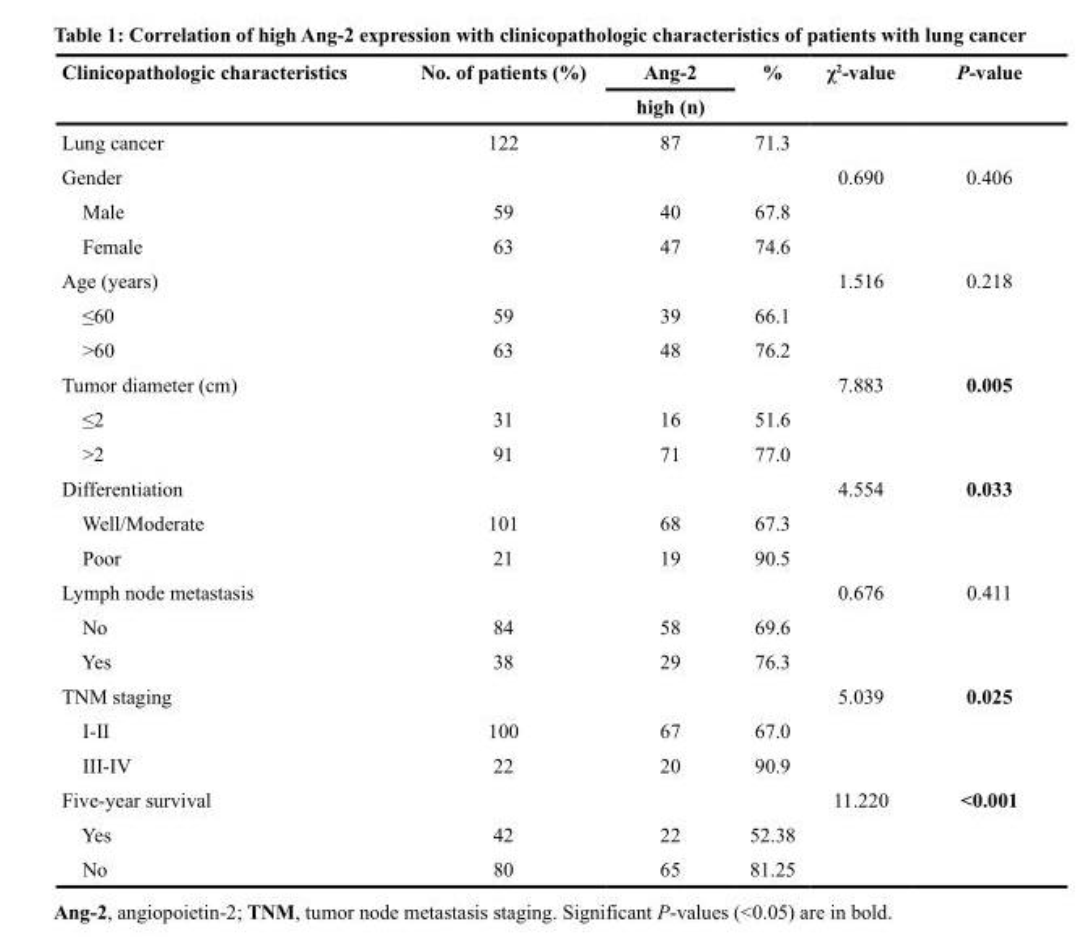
<table><thead><tr><td rowspan="2">Clinicopathologic characteristics</td><td rowspan="2">No. of patients (%)</td><td rowspan="2">Ang-2 high (n)</td><td rowspan="2">%</td><td rowspan="2">χ<sup>2</sup>-value</td><td rowspan="2">P-value</td></tr><tr></tr></thead><tbody><tr><td>Lung cancer</td><td>122</td><td>87</td><td>71.3</td><td></td><td></td></tr><tr><td>Gender</td><td></td><td></td><td></td><td>0.690</td><td>0.406</td></tr><tr><td>Male</td><td>59</td><td>40</td><td>67.8</td><td></td><td></td></tr><tr><td>Female</td><td>63</td><td>47</td><td>74.6</td><td></td><td></td></tr><tr><td>Age (years)</td><td></td><td></td><td></td><td>1.516</td><td>0.218</td></tr><tr><td>≤60</td><td>59</td><td>39</td><td>66.1</td><td></td><td></td></tr><tr><td>&gt;60</td><td>63</td><td>48</td><td>76.2</td><td></td><td></td></tr><tr><td>Tumor diameter (cm)</td><td></td><td></td><td></td><td>7.883</td><td>0.005</td></tr><tr><td>≤2</td><td>31</td><td>16</td><td>51.6</td><td></td><td></td></tr><tr><td>&gt;2</td><td>91</td><td>71</td><td>77.0</td><td></td><td></td></tr><tr><td>Differentiation</td><td></td><td></td><td></td><td>4.554</td><td>0.033</td></tr><tr><td>Well/Moderate</td><td>101</td><td>68</td><td>67.3</td><td></td><td></td></tr><tr><td>Poor</td><td>21</td><td>19</td><td>90.5</td><td></td><td></td></tr><tr><td>Lymph node metastasis</td><td></td><td></td><td></td><td>0.676</td><td>0.411</td></tr><tr><td>No</td><td>84</td><td>58</td><td>69.6</td><td></td><td></td></tr><tr><td>Yes</td><td>38</td><td>29</td><td>76.3</td><td></td><td></td></tr><tr><td>TNM staging</td><td></td><td></td><td></td><td>5.039</td><td>0.025</td></tr><tr><td>I-II</td><td>100</td><td>67</td><td>67.0</td><td></td><td></td></tr><tr><td>III-IV</td><td>22</td><td>20</td><td>90.9</td><td></td><td></td></tr><tr><td>Five-year survival</td><td></td><td></td><td></td><td>11.220</td><td>&lt;0.001</td></tr><tr><td>Yes</td><td>42</td><td>22</td><td>52.38</td><td></td><td></td></tr><tr><td>No</td><td>80</td><td>65</td><td>81.25</td><td></td><td></td></tr></tbody></table>